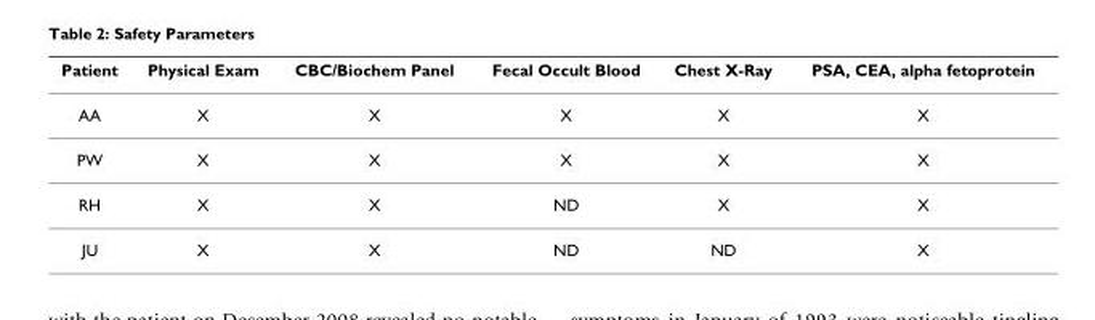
<table><thead><tr><td>Patient</td><td>Physical Exam</td><td>CBC/Biochem Panel</td><td>Fecal Occult Blood</td><td>Chest X-Ray</td><td>PSA, CEA, alpha fetoprotein</td></tr></thead><tbody><tr><td>AA</td><td>X</td><td>X</td><td>X</td><td>X</td><td>X</td></tr><tr><td>PW</td><td>X</td><td>X</td><td>X</td><td>X</td><td>X</td></tr><tr><td>RH</td><td>X</td><td>X</td><td>ND</td><td>X</td><td>X</td></tr><tr><td>JU</td><td>X</td><td>X</td><td>ND</td><td>ND</td><td>X</td></tr></tbody></table>